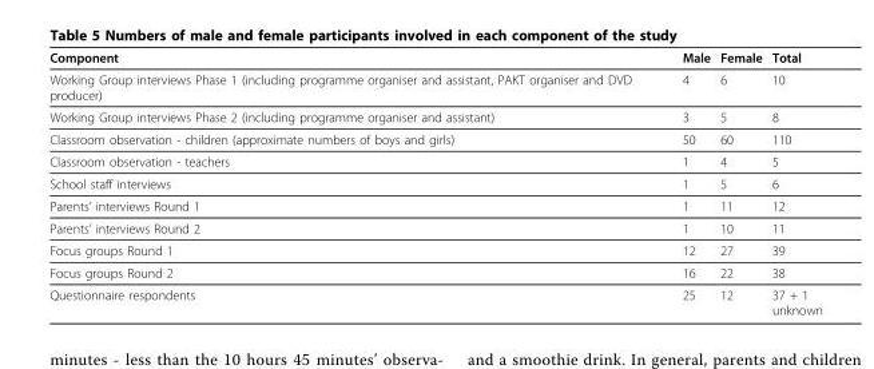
<table><thead><tr><td>Component</td><td>Male</td><td>Female</td><td>Total</td></tr></thead><tbody><tr><td>Working Group interviews Phase 1 (including programme organiser and assistant, PAKT organiser and DVD producer)</td><td>4</td><td>6</td><td>10</td></tr><tr><td>Working Group interviews Phase 2 (including programme organiser and assistant)</td><td>3</td><td>5</td><td>8</td></tr><tr><td>Classroom observation - children (approximate numbers of boys and girls)</td><td>50</td><td>60</td><td>110</td></tr><tr><td>Classroom observation - teachers</td><td>1</td><td>4</td><td>5</td></tr><tr><td>School staff interviews</td><td>1</td><td>5</td><td>6</td></tr><tr><td>Parents’ interviews Round 1</td><td>1</td><td>11</td><td>12</td></tr><tr><td>Parents’ interviews Round 2</td><td>1</td><td>10</td><td>11</td></tr><tr><td>Focus groups Round 1</td><td>12</td><td>27</td><td>39</td></tr><tr><td>Focus groups Round 2</td><td>16</td><td>22</td><td>38</td></tr><tr><td>Questionnaire respondents</td><td>25</td><td>12</td><td>37 + 1 unknown</td></tr></tbody></table>